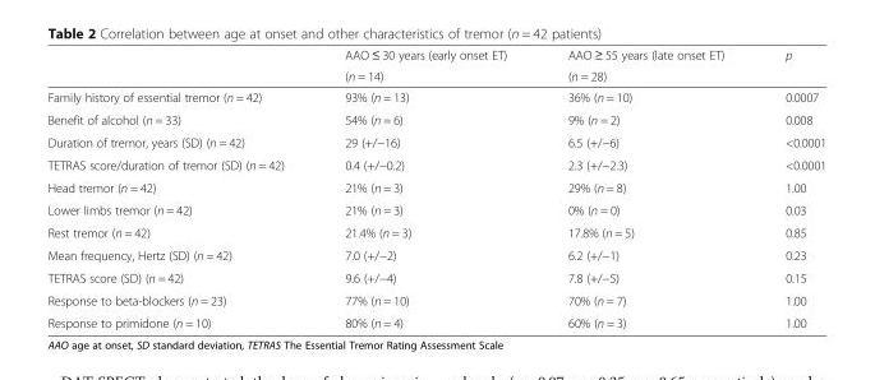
<table><thead><tr><td rowspan="2"></td><td rowspan="2">AAO ≤ 30 years (early onset ET) (n = 14)</td><td rowspan="2">AAO ≥ 55 years (late onset ET) (n = 28)</td><td rowspan="2">p</td></tr><tr></tr></thead><tbody><tr><td>Family history of essential tremor (n = 42)</td><td>93% (n = 13)</td><td>36% (n = 10)</td><td>0.0007</td></tr><tr><td>Benefit of alcohol (n = 33)</td><td>54% (n = 6)</td><td>9% (n = 2)</td><td>0.008</td></tr><tr><td>Duration of tremor, years (SD) (n = 42)</td><td>29 (+/−16)</td><td>6.5 (+/−6)</td><td>&lt;0.0001</td></tr><tr><td>TETRAS score/duration of tremor (SD) (n = 42)</td><td>0.4 (+/−0.2)</td><td>2.3 (+/−2.3)</td><td>&lt;0.0001</td></tr><tr><td>Head tremor (n = 42)</td><td>21% (n = 3)</td><td>29% (n = 8)</td><td>1.00</td></tr><tr><td>Lower limbs tremor (n = 42)</td><td>21% (n = 3)</td><td>0% (n = 0)</td><td>0.03</td></tr><tr><td>Rest tremor (n = 42)</td><td>21.4% (n = 3)</td><td>17.8% (n = 5)</td><td>0.85</td></tr><tr><td>Mean frequency, Hertz (SD) (n = 42)</td><td>7.0 (+/−2)</td><td>6.2 (+/−1)</td><td>0.23</td></tr><tr><td>TETRAS score (SD) (n = 42)</td><td>9.6 (+/−4)</td><td>7.8 (+/−5)</td><td>0.15</td></tr><tr><td>Response to beta-blockers (n = 23)</td><td>77% (n = 10)</td><td>70% (n = 7)</td><td>1.00</td></tr><tr><td>Response to primidone (n = 10)</td><td>80% (n = 4)</td><td>60% (n = 3)</td><td>1.00</td></tr></tbody></table>